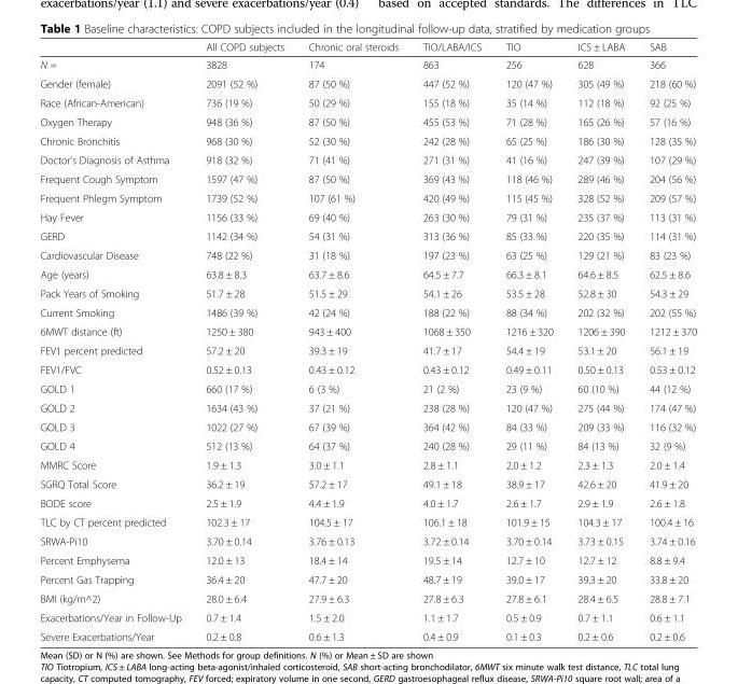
<table><thead><tr><td></td><td>All COPD subjects</td><td>Chronic oral steroids</td><td>TIO/LABA/ICS</td><td>TIO</td><td>ICS ± LABA</td><td>SAB</td></tr></thead><tbody><tr><td>N =</td><td>3828</td><td>174</td><td>863</td><td>256</td><td>628</td><td>366</td></tr><tr><td>Gender (female)</td><td>2091 (52 %)</td><td>87 (50 %)</td><td>447 (52 %)</td><td>120 (47 %)</td><td>305 (49 %)</td><td>218 (60 %)</td></tr><tr><td>Race (African-American)</td><td>736 (19 %)</td><td>50 (29 %)</td><td>155 (18 %)</td><td>35 (14 %)</td><td>112 (18 %)</td><td>92 (25 %)</td></tr><tr><td>Oxygen Therapy</td><td>948 (36 %)</td><td>87 (50 %)</td><td>455 (53 %)</td><td>71 (28 %)</td><td>165 (26 %)</td><td>57 (16 %)</td></tr><tr><td>Chronic Bronchitis</td><td>968 (30 %)</td><td>52 (30 %)</td><td>242 (28 %)</td><td>65 (25 %)</td><td>186 (30 %)</td><td>128 (35 %)</td></tr><tr><td>Doctor&#x27;s Diagnosis of Asthma</td><td>918 (32 %)</td><td>71 (41 %)</td><td>271 (31 %)</td><td>41 (16 %)</td><td>247 (39 %)</td><td>107 (29 %)</td></tr><tr><td>Frequent Cough Symptom</td><td>1597 (47 %)</td><td>87 (50 %)</td><td>369 (43 %)</td><td>118 (46 %)</td><td>289 (46 %)</td><td>204 (56 %)</td></tr><tr><td>Frequent Phlegm Symptom</td><td>1739 (52 %)</td><td>107 (61 %)</td><td>420 (49 %)</td><td>115 (45 %)</td><td>328 (52 %)</td><td>209 (57 %)</td></tr><tr><td>Hay Fever</td><td>1156 (33 %)</td><td>69 (40 %)</td><td>263 (30 %)</td><td>79 (31 %)</td><td>235 (37 %)</td><td>113 (31 %)</td></tr><tr><td>GERD</td><td>1142 (34 %)</td><td>54 (31 %)</td><td>313 (36 %)</td><td>85 (33 %)</td><td>220 (35 %)</td><td>114 (31 %)</td></tr><tr><td>Cardiovascular Disease</td><td>748 (22 %)</td><td>31 (18 %)</td><td>197 (23 %)</td><td>63 (25 %)</td><td>129 (21 %)</td><td>83 (23 %)</td></tr><tr><td>Age (years)</td><td>63.8 ± 8.3</td><td>63.7 ± 8.6</td><td>64.5 ± 7.7</td><td>66.3 ± 8.1</td><td>64.6 ± 8.5</td><td>62.5 ± 8.6</td></tr><tr><td>Pack Years of Smoking</td><td>51.7 ± 28</td><td>51.5 ± 29</td><td>54.1 ± 26</td><td>53.5 ± 28</td><td>52.8 ± 30</td><td>54.3 ± 29</td></tr><tr><td>Current Smoking</td><td>1486 (39 %)</td><td>42 (24 %)</td><td>188 (22 %)</td><td>88 (34 %)</td><td>202 (32 %)</td><td>202 (55 %)</td></tr><tr><td>6MWT distance (ft)</td><td>1250 ± 380</td><td>943 ± 400</td><td>1068 ± 350</td><td>1216 ± 320</td><td>1206 ± 390</td><td>1212 ± 370</td></tr><tr><td>FEV1 percent predicted</td><td>57.2 ± 20</td><td>39.3 ± 19</td><td>41.7 ± 17</td><td>54.4 ± 19</td><td>53.1 ± 20</td><td>56.1 ± 19</td></tr><tr><td>FEV1/FVC</td><td>0.52 ± 0.13</td><td>0.43 ± 0.12</td><td>0.43 ± 0.12</td><td>0.49 ± 0.11</td><td>0.50 ± 0.13</td><td>0.53 ± 0.12</td></tr><tr><td>GOLD 1</td><td>660 (17 %)</td><td>6 (3 %)</td><td>21 (2 %)</td><td>23 (9 %)</td><td>60 (10 %)</td><td>44 (12 %)</td></tr><tr><td>GOLD 2</td><td>1634 (43 %)</td><td>37 (21 %)</td><td>238 (28 %)</td><td>120 (47 %)</td><td>275 (44 %)</td><td>174 (47 %)</td></tr><tr><td>GOLD 3</td><td>1022 (27 %)</td><td>67 (39 %)</td><td>364 (42 %)</td><td>84 (33 %)</td><td>209 (33 %)</td><td>116 (32 %)</td></tr><tr><td>GOLD 4</td><td>512 (13 %)</td><td>64 (37 %)</td><td>240 (28 %)</td><td>29 (11 %)</td><td>84 (13 %)</td><td>32 (9 %)</td></tr><tr><td>MMRC Score</td><td>1.9 ± 1.3</td><td>3.0 ± 1.1</td><td>2.8 ± 1.1</td><td>2.0 ± 1.2</td><td>2.3 ± 1.3</td><td>2.0 ± 1.4</td></tr><tr><td>SGRQ Total Score</td><td>36.2 ± 19</td><td>57.2 ± 17</td><td>49.1 ± 18</td><td>38.9 ± 17</td><td>42.6 ± 20</td><td>41.9 ± 20</td></tr><tr><td>BODE score</td><td>2.5 ± 1.9</td><td>4.4 ± 1.9</td><td>4.0 ± 1.7</td><td>2.6 ± 1.7</td><td>2.9 ± 1.9</td><td>2.6 ± 1.8</td></tr><tr><td>TLC by CT percent predicted</td><td>102.3 ± 17</td><td>104.5 ± 17</td><td>106.1 ± 18</td><td>101.9 ± 15</td><td>104.3 ± 17</td><td>100.4 ± 16</td></tr><tr><td>SRWA-Pi10</td><td>3.70 ± 0.14</td><td>3.76 ± 0.13</td><td>3.72 ± 0.14</td><td>3.70 ± 0.14</td><td>3.73 ± 0.15</td><td>3.74 ± 0.16</td></tr><tr><td>Percent Emphysema</td><td>12.0 ± 13</td><td>18.4 ± 14</td><td>19.5 ± 14</td><td>12.7 ± 10</td><td>12.7 ± 12</td><td>8.8 ± 9.4</td></tr><tr><td>Percent Gas Trapping</td><td>36.4 ± 20</td><td>47.7 ± 20</td><td>48.7 ± 19</td><td>39.0 ± 17</td><td>39.3 ± 20</td><td>33.8 ± 20</td></tr><tr><td>BMI (kg/m^2)</td><td>28.0 ± 6.4</td><td>27.9 ± 6.3</td><td>27.8 ± 6.3</td><td>27.8 ± 6.1</td><td>28.4 ± 6.5</td><td>28.8 ± 7.1</td></tr><tr><td>Exacerbations/Year in Follow-Up</td><td>0.7 ± 1.4</td><td>1.5 ± 2.0</td><td>1.1 ± 1.7</td><td>0.5 ± 0.9</td><td>0.7 ± 1.1</td><td>0.6 ± 1.1</td></tr><tr><td>Severe Exacerbations/Year</td><td>0.2 ± 0.8</td><td>0.6 ± 1.3</td><td>0.4 ± 0.9</td><td>0.1 ± 0.3</td><td>0.2 ± 0.6</td><td>0.2 ± 0.6</td></tr></tbody></table>